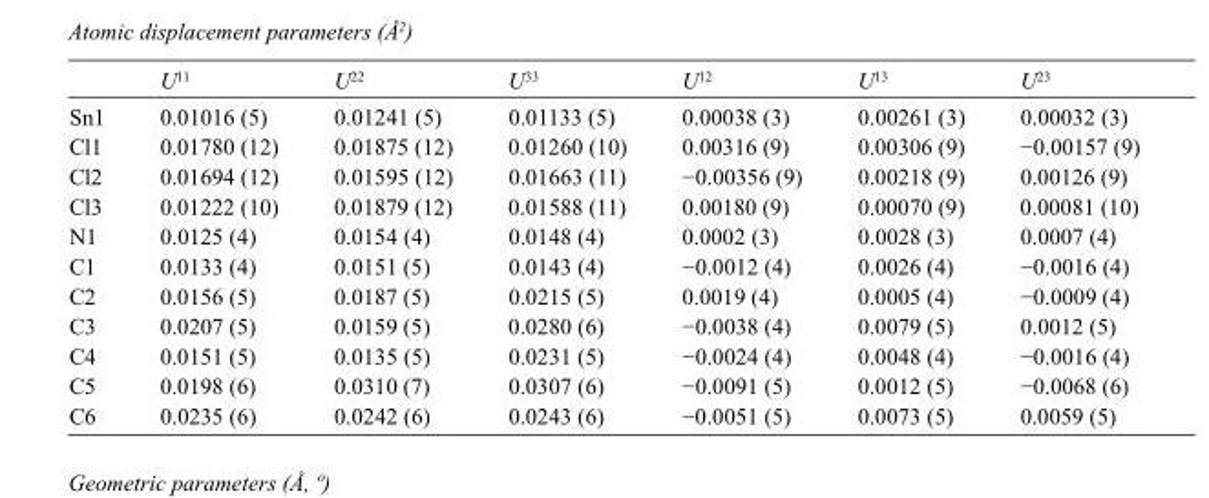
<table><thead><tr><td></td><td>U<sup>11</sup></td><td>U<sup>22</sup></td><td>U<sup>33</sup></td><td>U<sup>12</sup></td><td>U<sup>13</sup></td><td>U<sup>23</sup></td></tr></thead><tbody><tr><td>Sn1</td><td>0.01016 (5)</td><td>0.01241 (5)</td><td>0.01133 (5)</td><td>0.00038 (3)</td><td>0.00261 (3)</td><td>0.00032 (3)</td></tr><tr><td>Cl1</td><td>0.01780 (12)</td><td>0.01875 (12)</td><td>0.01260 (10)</td><td>0.00316 (9)</td><td>0.00306 (9)</td><td>−0.00157 (9)</td></tr><tr><td>Cl2</td><td>0.01694 (12)</td><td>0.01595 (12)</td><td>0.01663 (11)</td><td>−0.00356 (9)</td><td>0.00218 (9)</td><td>0.00126 (9)</td></tr><tr><td>Cl3</td><td>0.01222 (10)</td><td>0.01879 (12)</td><td>0.01588 (11)</td><td>0.00180 (9)</td><td>0.00070 (9)</td><td>0.00081 (10)</td></tr><tr><td>N1</td><td>0.0125 (4)</td><td>0.0154 (4)</td><td>0.0148 (4)</td><td>0.0002 (3)</td><td>0.0028 (3)</td><td>0.0007 (4)</td></tr><tr><td>C1</td><td>0.0133 (4)</td><td>0.0151 (5)</td><td>0.0143 (4)</td><td>−0.0012 (4)</td><td>0.0026 (4)</td><td>−0.0016 (4)</td></tr><tr><td>C2</td><td>0.0156 (5)</td><td>0.0187 (5)</td><td>0.0215 (5)</td><td>0.0019 (4)</td><td>0.0005 (4)</td><td>−0.0009 (4)</td></tr><tr><td>C3</td><td>0.0207 (5)</td><td>0.0159 (5)</td><td>0.0280 (6)</td><td>−0.0038 (4)</td><td>0.0079 (5)</td><td>0.0012 (5)</td></tr><tr><td>C4</td><td>0.0151 (5)</td><td>0.0135 (5)</td><td>0.0231 (5)</td><td>−0.0024 (4)</td><td>0.0048 (4)</td><td>−0.0016 (4)</td></tr><tr><td>C5</td><td>0.0198 (6)</td><td>0.0310 (7)</td><td>0.0307 (6)</td><td>−0.0091 (5)</td><td>0.0012 (5)</td><td>−0.0068 (6)</td></tr><tr><td>C6</td><td>0.0235 (6)</td><td>0.0242 (6)</td><td>0.0243 (6)</td><td>−0.0051 (5)</td><td>0.0073 (5)</td><td>0.0059 (5)</td></tr></tbody></table>